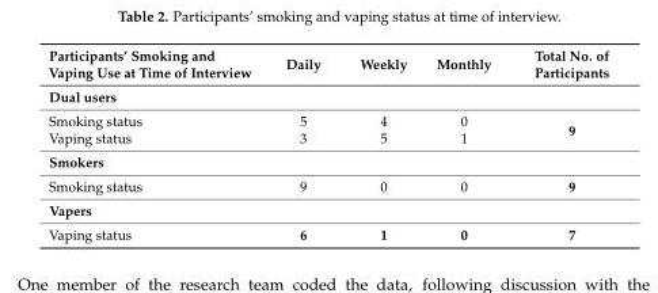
<table><thead><tr><td>Participants’ Smoking and Vaping Use at Time of Interview</td><td>Daily</td><td>Weekly</td><td>Monthly</td><td>Total No. of Participants</td></tr></thead><tbody><tr><td colspan="5">Dual users</td></tr><tr><td>Smoking status</td><td>5</td><td>4</td><td>0</td><td rowspan="2">9</td></tr><tr><td>Vaping status</td><td>3</td><td>5</td><td>1</td></tr><tr><td colspan="5">Smokers</td></tr><tr><td>Smoking status</td><td>9</td><td>0</td><td>0</td><td>9</td></tr><tr><td colspan="5">Vapers</td></tr><tr><td>Vaping status</td><td>6</td><td>1</td><td>0</td><td>7</td></tr></tbody></table>